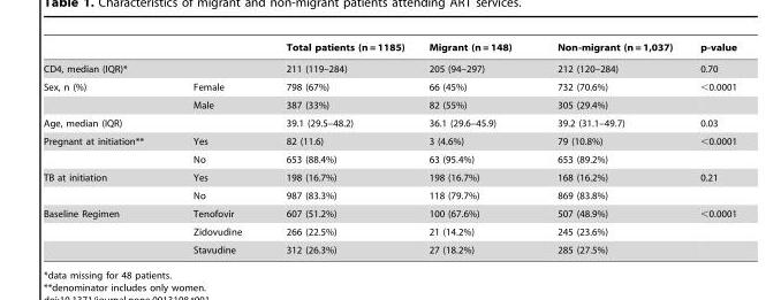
<table><thead><tr><td></td><td></td><td>Total patients (n = 1185)</td><td>Migrant (n = 148)</td><td>Non-migrant (n = 1,037)</td><td>p-value</td></tr></thead><tbody><tr><td>CD4, median (IQR)*</td><td></td><td>211 (119–284)</td><td>205 (94–297)</td><td>212 (120–284)</td><td>0.70</td></tr><tr><td rowspan="2">Sex, n (%)</td><td>Female</td><td>798 (67%)</td><td>66 (45%)</td><td>732 (70.6%)</td><td>&lt;0.0001</td></tr><tr><td>Male</td><td>387 (33%)</td><td>82 (55%)</td><td>305 (29.4%)</td><td></td></tr><tr><td>Age, median (IQR)</td><td></td><td>39.1 (29.5–48.2)</td><td>36.1 (29.6–45.9)</td><td>39.2 (31.1–49.7)</td><td>0.03</td></tr><tr><td rowspan="2">Pregnant at initiation**</td><td>Yes</td><td>82 (11.6)</td><td>3 (4.6%)</td><td>79 (10.8%)</td><td>&lt;0.0001</td></tr><tr><td>No</td><td>653 (88.4%)</td><td>63 (95.4%)</td><td>653 (89.2%)</td><td></td></tr><tr><td rowspan="2">TB at initiation</td><td>Yes</td><td>198 (16.7%)</td><td>198 (16.7%)</td><td>168 (16.2%)</td><td>0.21</td></tr><tr><td>No</td><td>987 (83.3%)</td><td>118 (79.7%)</td><td>869 (83.8%)</td><td></td></tr><tr><td rowspan="3">Baseline Regimen</td><td>Tenofovir</td><td>607 (51.2%)</td><td>100 (67.6%)</td><td>507 (48.9%)</td><td>&lt;0.0001</td></tr><tr><td>Zidovudine</td><td>266 (22.5%)</td><td>21 (14.2%)</td><td>245 (23.6%)</td><td></td></tr><tr><td>Stavudine</td><td>312 (26.3%)</td><td>27 (18.2%)</td><td>285 (27.5%)</td><td></td></tr></tbody></table>